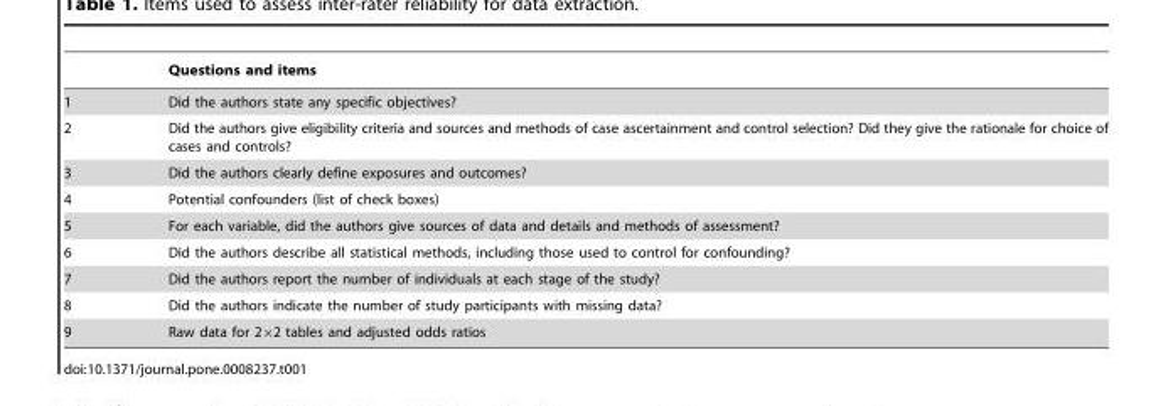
<table><thead><tr><td></td><td>Questions and items</td></tr></thead><tbody><tr><td>1</td><td>Did the authors state any specific objectives?</td></tr><tr><td>2</td><td>Did the authors give eligibility criteria and sources and methods of case ascertainment and control selection? Did they give the rationale for choice of cases and controls?</td></tr><tr><td>3</td><td>Did the authors clearly define exposures and outcomes?</td></tr><tr><td>4</td><td>Potential confounders (list of check boxes)</td></tr><tr><td>5</td><td>For each variable, did the authors give sources of data and details and methods of assessment?</td></tr><tr><td>6</td><td>Did the authors describe all statistical methods, including those used to control for confounding?</td></tr><tr><td>7</td><td>Did the authors report the number of individuals at each stage of the study?</td></tr><tr><td>8</td><td>Did the authors indicate the number of study participants with missing data?</td></tr><tr><td>9</td><td>Raw data for 2×2 tables and adjusted odds ratios</td></tr></tbody></table>